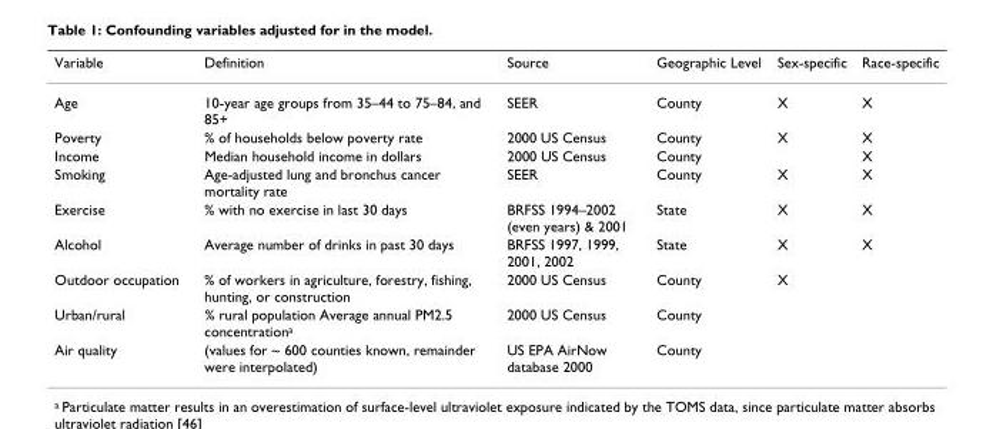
<table><thead><tr><td>Variable</td><td>Definition</td><td>Source</td><td>Geographic Level</td><td>Sex-specific</td><td>Race-specific</td></tr></thead><tbody><tr><td>Age</td><td>10-year age groups from 35–44 to 75–84, and 85+</td><td>SEER</td><td>County</td><td>X</td><td>X</td></tr><tr><td>Poverty</td><td>% of households below poverty rate</td><td>2000 US Census</td><td>County</td><td>X</td><td>X</td></tr><tr><td>Income</td><td>Median household income in dollars</td><td>2000 US Census</td><td>County</td><td></td><td>X</td></tr><tr><td>Smoking</td><td>Age-adjusted lung and bronchus cancer mortality rate</td><td>SEER</td><td>County</td><td>X</td><td>X</td></tr><tr><td>Exercise</td><td>% with no exercise in last 30 days</td><td>BRFSS 1994–2002 (even years) &amp; 2001</td><td>State</td><td>X</td><td>X</td></tr><tr><td>Alcohol</td><td>Average number of drinks in past 30 days</td><td>BRFSS 1997, 1999, 2001, 2002</td><td>State</td><td>X</td><td>X</td></tr><tr><td>Outdoor occupation</td><td>% of workers in agriculture, forestry, fishing, hunting, or construction</td><td>2000 US Census</td><td>County</td><td>X</td><td></td></tr><tr><td>Urban/rural</td><td>% rural population Average annual PM2.5 concentrationa</td><td>2000 US Census</td><td>County</td><td></td><td></td></tr><tr><td>Air quality</td><td>(values for ~ 600 counties known, remainder were interpolated)</td><td>US EPA AirNow database 2000</td><td>County</td><td></td><td></td></tr></tbody></table>